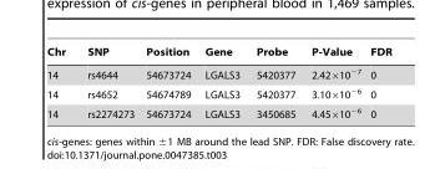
<table><thead><tr><td>Chr</td><td>SNP</td><td>Position</td><td>Gene</td><td>Probe</td><td>P-Value</td><td>FDR</td></tr></thead><tbody><tr><td>14</td><td>rs4644</td><td>54673724</td><td>LGALS3</td><td>5420377</td><td>2.42×10<sup>−7</sup></td><td>0</td></tr><tr><td>14</td><td>rs4652</td><td>54674789</td><td>LGALS3</td><td>5420377</td><td>3.10×10<sup>−6</sup></td><td>0</td></tr><tr><td>14</td><td>rs2274273</td><td>54673724</td><td>LGALS3</td><td>3450685</td><td>4.45×10<sup>−6</sup></td><td>0</td></tr></tbody></table>